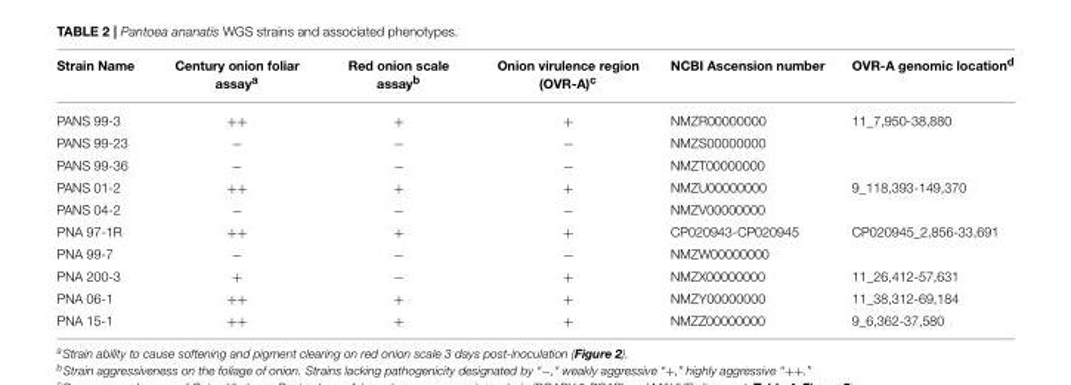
<table><thead><tr><td>Strain Name</td><td>Century onion foliar assay<sup>a</sup></td><td>Red onion scale assay<sup>b</sup></td><td>Onion virulence region (OVR-A)<sup>c</sup></td><td>NCBI Ascension number</td><td>OVR-A genomic location<sup>d</sup></td></tr></thead><tbody><tr><td>PANS 99-3</td><td>++</td><td>+</td><td>+</td><td>NMZR00000000</td><td>11_7,950-38,880</td></tr><tr><td>PANS 99-23</td><td>−</td><td>−</td><td>−</td><td>NMZS00000000</td><td></td></tr><tr><td>PANS 99-36</td><td>−</td><td>−</td><td>−</td><td>NMZT00000000</td><td></td></tr><tr><td>PANS 01-2</td><td>++</td><td>+</td><td>+</td><td>NMZU00000000</td><td>9_118,393-149,370</td></tr><tr><td>PANS 04-2</td><td>−</td><td>−</td><td>−</td><td>NMZV00000000</td><td></td></tr><tr><td>PNA 97-1R</td><td>++</td><td>+</td><td>+</td><td>CP020943-CP020945</td><td>CP020945_2,856-33,691</td></tr><tr><td>PNA 99-7</td><td>−</td><td>−</td><td>−</td><td>NMZW00000000</td><td></td></tr><tr><td>PNA 200-3</td><td>+</td><td>−</td><td>+</td><td>NMZX00000000</td><td>11_26,412-57,631</td></tr><tr><td>PNA 06-1</td><td>++</td><td>+</td><td>+</td><td>NMZY00000000</td><td>11_38,312-69,184</td></tr><tr><td>PNA 15-1</td><td>++</td><td>+</td><td>+</td><td>NMZZ00000000</td><td>9_6,362-37,580</td></tr></tbody></table>